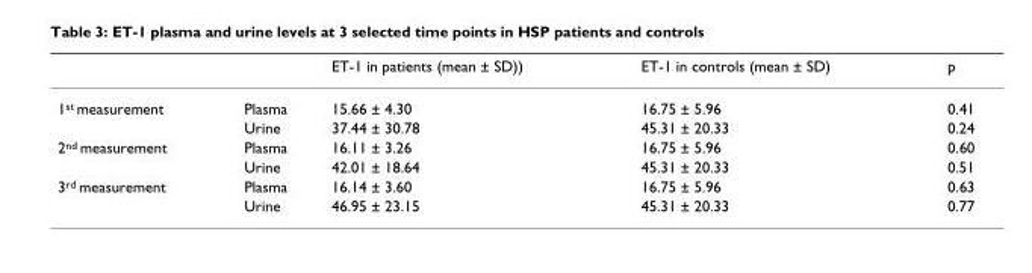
<table><thead><tr><td></td><td></td><td>ET-1 in patients (mean ± SD))</td><td>ET-1 in controls (mean ± SD)</td><td>p</td></tr></thead><tbody><tr><td rowspan="2">1<sup>st</sup> measurement</td><td>Plasma</td><td>15.66 ± 4.30</td><td>16.75 ± 5.96</td><td>0.41</td></tr><tr><td>Urine</td><td>37.44 ± 30.78</td><td>45.31 ± 20.33</td><td>0.24</td></tr><tr><td rowspan="2">2<sup>nd</sup> measurement</td><td>Plasma</td><td>16.11 ± 3.26</td><td>16.75 ± 5.96</td><td>0.60</td></tr><tr><td>Urine</td><td>42.01 ± 18.64</td><td>45.31 ± 20.33</td><td>0.51</td></tr><tr><td rowspan="2">3<sup>rd</sup> measurement</td><td>Plasma</td><td>16.14 ± 3.60</td><td>16.75 ± 5.96</td><td>0.63</td></tr><tr><td>Urine</td><td>46.95 ± 23.15</td><td>45.31 ± 20.33</td><td>0.77</td></tr></tbody></table>